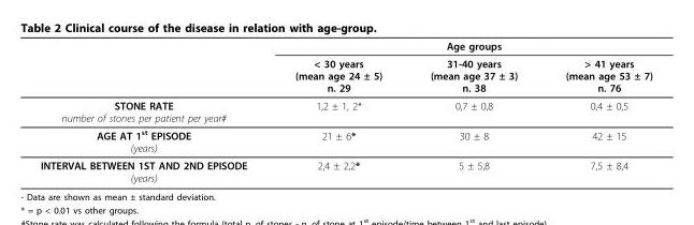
<table><thead><tr><td rowspan="2"></td><td colspan="3">Age groups</td></tr><tr><td>&lt; 30 years (mean age 24 ± 5) n. 29</td><td>31-40 years (mean age 37 ± 3) n. 38</td><td>&gt; 41 years (mean age 53 ± 7) n. 76</td></tr></thead><tbody><tr><td>STONE RATE number of stones per patient per year#</td><td>1,2 ± 1, 2*</td><td>0,7 ± 0,8</td><td>0,4 ± 0,5</td></tr><tr><td>AGE AT 1<sup>st</sup> EPISODE (years)</td><td>21 ± 6*</td><td>30 ± 8</td><td>42 ± 15</td></tr><tr><td>INTERVAL BETWEEN 1ST AND 2ND EPISODE (years)</td><td>2,4 ± 2,2*</td><td>5 ± 5,8</td><td>7,5 ± 8,4</td></tr></tbody></table>